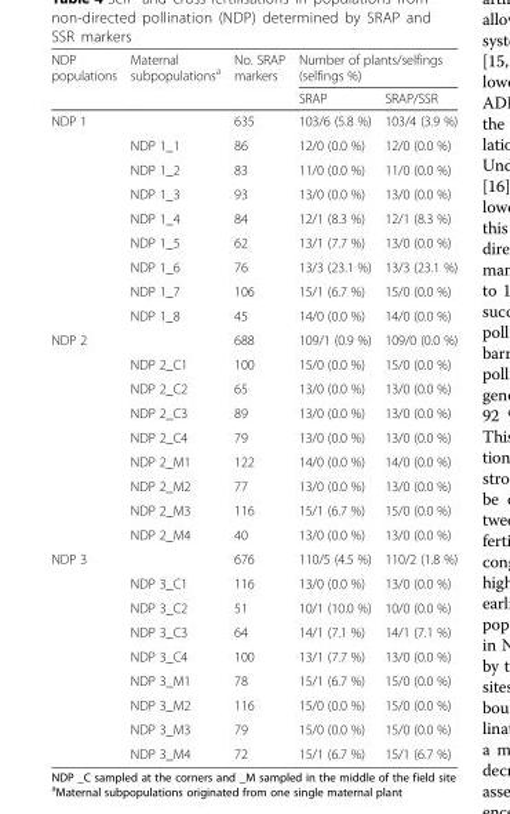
<table><thead><tr><td rowspan="2">NDP populations</td><td rowspan="2">Maternal subpopulations<sup>a</sup></td><td rowspan="2">No. SRAP markers</td><td colspan="2">Number of plants/selfings (selfings %)</td></tr><tr><td>SRAP</td><td>SRAP/SSR</td></tr></thead><tbody><tr><td rowspan="9">NDP 1</td><td></td><td>635</td><td>103/6 (5.8 %)</td><td>103/4 (3.9 %)</td></tr><tr><td>NDP 1_1</td><td>86</td><td>12/0 (0.0 %)</td><td>12/0 (0.0 %)</td></tr><tr><td>NDP 1_2</td><td>83</td><td>11/0 (0.0 %)</td><td>11/0 (0.0 %)</td></tr><tr><td>NDP 1_3</td><td>93</td><td>13/0 (0.0 %)</td><td>13/0 (0.0 %)</td></tr><tr><td>NDP 1_4</td><td>84</td><td>12/1 (8.3 %)</td><td>12/1 (8.3 %)</td></tr><tr><td>NDP 1_5</td><td>62</td><td>13/1 (7.7 %)</td><td>13/0 (0.0 %)</td></tr><tr><td>NDP 1_6</td><td>76</td><td>13/3 (23.1 %)</td><td>13/3 (23.1 %)</td></tr><tr><td>NDP 1_7</td><td>106</td><td>15/1 (6.7 %)</td><td>15/0 (0.0 %)</td></tr><tr><td>NDP 1_8</td><td>45</td><td>14/0 (0.0 %)</td><td>14/0 (0.0 %)</td></tr><tr><td rowspan="9">NDP 2</td><td></td><td>688</td><td>109/1 (0.9 %)</td><td>109/0 (0.0 %)</td></tr><tr><td>NDP 2_C1</td><td>100</td><td>15/0 (0.0 %)</td><td>15/0 (0.0 %)</td></tr><tr><td>NDP 2_C2</td><td>65</td><td>13/0 (0.0 %)</td><td>13/0 (0.0 %)</td></tr><tr><td>NDP 2_C3</td><td>89</td><td>13/0 (0.0 %)</td><td>13/0 (0.0 %)</td></tr><tr><td>NDP 2_C4</td><td>79</td><td>13/0 (0.0 %)</td><td>13/0 (0.0 %)</td></tr><tr><td>NDP 2_M1</td><td>122</td><td>14/0 (0.0 %)</td><td>14/0 (0.0 %)</td></tr><tr><td>NDP 2_M2</td><td>77</td><td>13/0 (0.0 %)</td><td>13/0 (0.0 %)</td></tr><tr><td>NDP 2_M3</td><td>116</td><td>15/1 (6.7 %)</td><td>15/0 (0.0 %)</td></tr><tr><td>NDP 2_M4</td><td>40</td><td>13/0 (0.0 %)</td><td>13/0 (0.0 %)</td></tr><tr><td rowspan="9">NDP 3</td><td></td><td>676</td><td>110/5 (4.5 %)</td><td>110/2 (1.8 %)</td></tr><tr><td>NDP 3_C1</td><td>116</td><td>13/0 (0.0 %)</td><td>13/0 (0.0 %)</td></tr><tr><td>NDP 3_C2</td><td>51</td><td>10/1 (10.0 %)</td><td>10/0 (0.0 %)</td></tr><tr><td>NDP 3_C3</td><td>64</td><td>14/1 (7.1 %)</td><td>14/1 (7.1 %)</td></tr><tr><td>NDP 3_C4</td><td>100</td><td>13/1 (7.7 %)</td><td>13/0 (0.0 %)</td></tr><tr><td>NDP 3_M1</td><td>78</td><td>15/1 (6.7 %)</td><td>15/0 (0.0 %)</td></tr><tr><td>NDP 3_M2</td><td>116</td><td>15/0 (0.0 %)</td><td>15/0 (0.0 %)</td></tr><tr><td>NDP 3_M3</td><td>79</td><td>15/0 (0.0 %)</td><td>15/0 (0.0 %)</td></tr><tr><td>NDP 3_M4</td><td>72</td><td>15/1 (6.7 %)</td><td>15/1 (6.7 %)</td></tr></tbody></table>